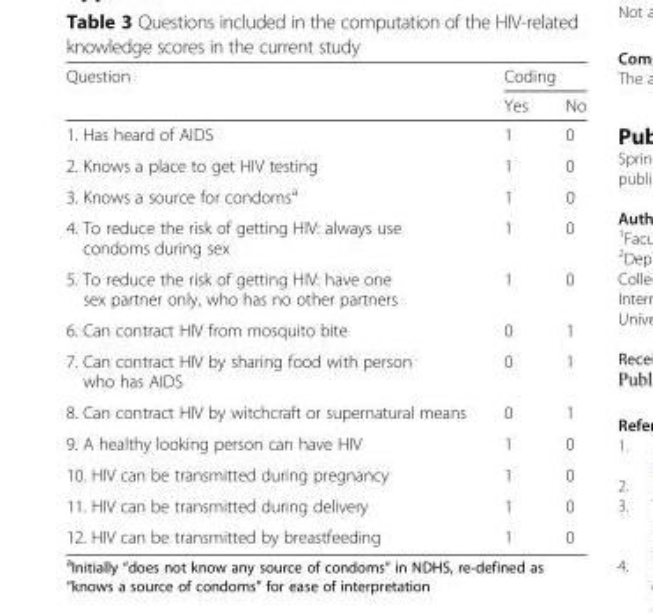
<table><thead><tr><td rowspan="2">Question</td><td colspan="2">Coding</td></tr><tr><td>Yes</td><td>No</td></tr></thead><tbody><tr><td>1. Has heard of AIDS</td><td>1</td><td>0</td></tr><tr><td>2. Knows a place to get HIV testing</td><td>1</td><td>0</td></tr><tr><td>3. Knows a source for condoms<sup>a</sup></td><td>1</td><td>0</td></tr><tr><td>4. To reduce the risk of getting HIV: always use condoms during sex</td><td>1</td><td>0</td></tr><tr><td>5. To reduce the risk of getting HIV: have one sex partner only, who has no other partners</td><td>1</td><td>0</td></tr><tr><td>6. Can contract HIV from mosquito bite</td><td>0</td><td>1</td></tr><tr><td>7. Can contract HIV by sharing food with person who has AIDS</td><td>0</td><td>1</td></tr><tr><td>8. Can contract HIV by witchcraft or supernatural means</td><td>0</td><td>1</td></tr><tr><td>9. A healthy looking person can have HIV</td><td>1</td><td>0</td></tr><tr><td>10. HIV can be transmitted during pregnancy</td><td>1</td><td>0</td></tr><tr><td>11. HIV can be transmitted during delivery</td><td>1</td><td>0</td></tr><tr><td>12. HIV can be transmitted by breastfeeding</td><td>1</td><td>0</td></tr></tbody></table>